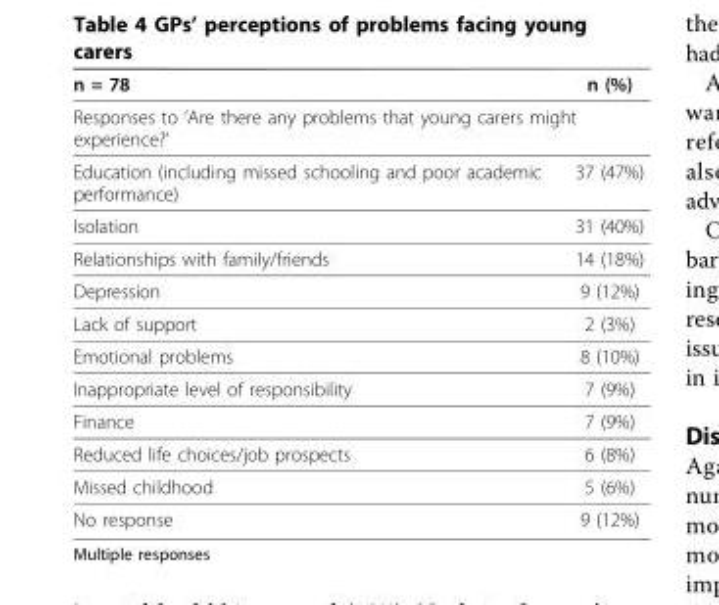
<table><thead><tr><td>n = 78</td><td>n (%)</td></tr></thead><tbody><tr><td colspan="2">Responses to ‘Are there any problems that young carers might experience?’</td></tr><tr><td>Education (including missed schooling and poor academic performance)</td><td>37 (47%)</td></tr><tr><td>Isolation</td><td>31 (40%)</td></tr><tr><td>Relationships with family/friends</td><td>14 (18%)</td></tr><tr><td>Depression</td><td>9 (12%)</td></tr><tr><td>Lack of support</td><td>2 (3%)</td></tr><tr><td>Emotional problems</td><td>8 (10%)</td></tr><tr><td>Inappropriate level of responsibility</td><td>7 (9%)</td></tr><tr><td>Finance</td><td>7 (9%)</td></tr><tr><td>Reduced life choices/job prospects</td><td>6 (8%)</td></tr><tr><td>Missed childhood</td><td>5 (6%)</td></tr><tr><td>No response</td><td>9 (12%)</td></tr></tbody></table>